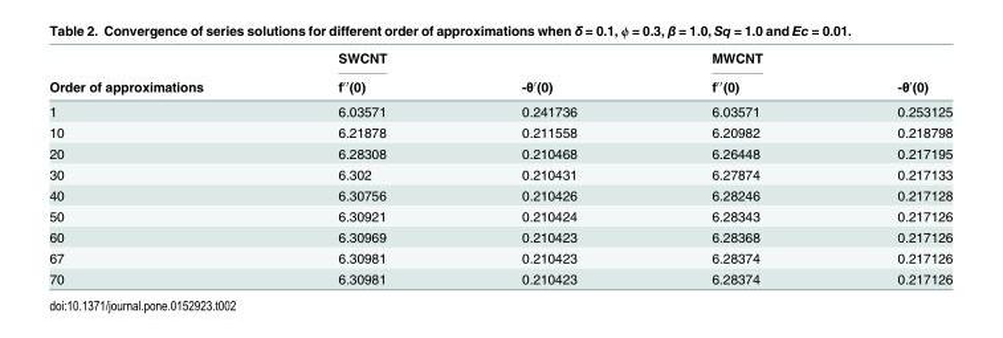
<table><thead><tr><td rowspan="2">Order of approximations</td><td rowspan="2">SWCNT f′′(0)</td><td rowspan="2">-θ′(0)</td><td rowspan="2">MWCNT f′′(0)</td><td rowspan="2">-θ′(0)</td></tr><tr></tr></thead><tbody><tr><td>1</td><td>6.03571</td><td>0.241736</td><td>6.03571</td><td>0.253125</td></tr><tr><td>10</td><td>6.21878</td><td>0.211558</td><td>6.20982</td><td>0.218798</td></tr><tr><td>20</td><td>6.28308</td><td>0.210468</td><td>6.26448</td><td>0.217195</td></tr><tr><td>30</td><td>6.302</td><td>0.210431</td><td>6.27874</td><td>0.217133</td></tr><tr><td>40</td><td>6.30756</td><td>0.210426</td><td>6.28246</td><td>0.217128</td></tr><tr><td>50</td><td>6.30921</td><td>0.210424</td><td>6.28343</td><td>0.217126</td></tr><tr><td>60</td><td>6.30969</td><td>0.210423</td><td>6.28368</td><td>0.217126</td></tr><tr><td>67</td><td>6.30981</td><td>0.210423</td><td>6.28374</td><td>0.217126</td></tr><tr><td>70</td><td>6.30981</td><td>0.210423</td><td>6.28374</td><td>0.217126</td></tr></tbody></table>